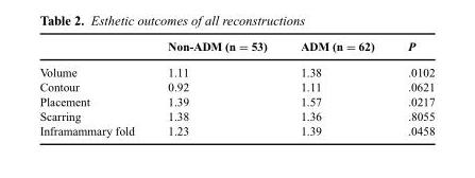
<table><thead><tr><td></td><td>Non-ADM (n = 53)</td><td>ADM (n = 62)</td><td>P</td></tr></thead><tbody><tr><td>Volume</td><td>1.11</td><td>1.38</td><td>.0102</td></tr><tr><td>Contour</td><td>0.92</td><td>1.11</td><td>.0621</td></tr><tr><td>Placement</td><td>1.39</td><td>1.57</td><td>.0217</td></tr><tr><td>Scarring</td><td>1.38</td><td>1.36</td><td>.8055</td></tr><tr><td>Inframammary fold</td><td>1.23</td><td>1.39</td><td>.0458</td></tr></tbody></table>